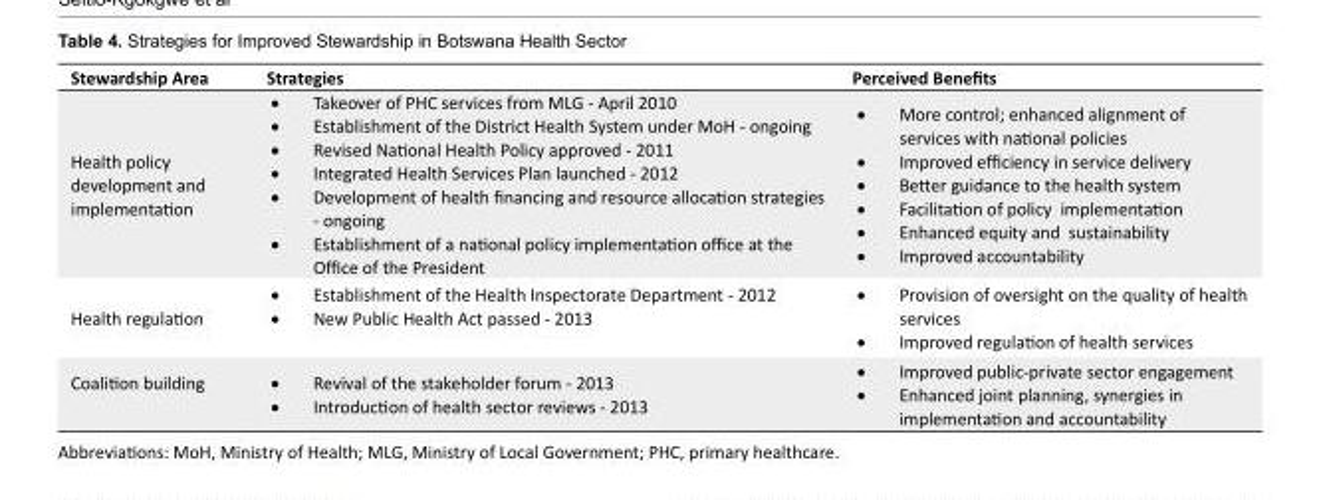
<table><tbody><tr><td>Stewardship Area</td><td>Strategies</td><td>Perceived Benefits</td></tr><tr><td>Health policy development and implementation</td><td>• Takeover of PHC services from MLG - April 2010 • Establishment of the District Health System under MoH - ongoing • Revised National Health Policy approved - 2011 • Integrated Health Services Plan launched - 2012 • Development of health financing and resource allocation strategies - ongoing • Establishment of a national policy implementation office at the Office of the President</td><td>• More control; enhanced alignment of services with national policies • Improved efficiency in service delivery • Better guidance to the health system • Facilitation of policy implementation • Enhanced equity and sustainability • Improved accountability</td></tr><tr><td>Health regulation</td><td>• Establishment of the Health Inspectorate Department - 2012 • New Public Health Act passed - 2013</td><td>• Provision of oversight on the quality of health services • Improved regulation of health services</td></tr><tr><td>Coalition building</td><td>• Revival of the stakeholder forum - 2013 • Introduction of health sector reviews - 2013</td><td>• Improved public-private sector engagement • Enhanced joint planning, synergies in implementation and accountability</td></tr></tbody></table>